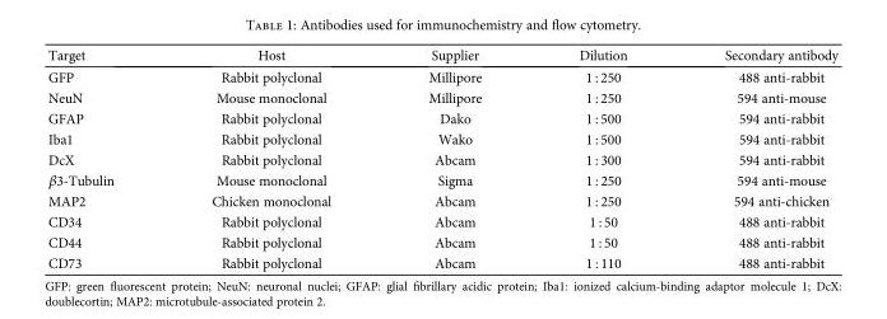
<table><thead><tr><td>Target</td><td>Host</td><td>Supplier</td><td>Dilution</td><td>Secondary antibody</td></tr></thead><tbody><tr><td>GFP</td><td>Rabbit polyclonal</td><td>Millipore</td><td>1 : 250</td><td>488 anti-rabbit</td></tr><tr><td>NeuN</td><td>Mouse monoclonal</td><td>Millipore</td><td>1 : 250</td><td>594 anti-mouse</td></tr><tr><td>GFAP</td><td>Rabbit polyclonal</td><td>Dako</td><td>1 : 500</td><td>594 anti-rabbit</td></tr><tr><td>Iba1</td><td>Rabbit polyclonal</td><td>Wako</td><td>1 : 500</td><td>594 anti-rabbit</td></tr><tr><td>DcX</td><td>Rabbit polyclonal</td><td>Abcam</td><td>1 : 300</td><td>594 anti-rabbit</td></tr><tr><td>β3-Tubulin</td><td>Mouse monoclonal</td><td>Sigma</td><td>1 : 250</td><td>594 anti-mouse</td></tr><tr><td>MAP2</td><td>Chicken monoclonal</td><td>Abcam</td><td>1 : 250</td><td>594 anti-chicken</td></tr><tr><td>CD34</td><td>Rabbit polyclonal</td><td>Abcam</td><td>1 : 50</td><td>488 anti-rabbit</td></tr><tr><td>CD44</td><td>Rabbit polyclonal</td><td>Abcam</td><td>1 : 50</td><td>488 anti-rabbit</td></tr><tr><td>CD73</td><td>Rabbit polyclonal</td><td>Abcam</td><td>1 : 110</td><td>488 anti-rabbit</td></tr></tbody></table>